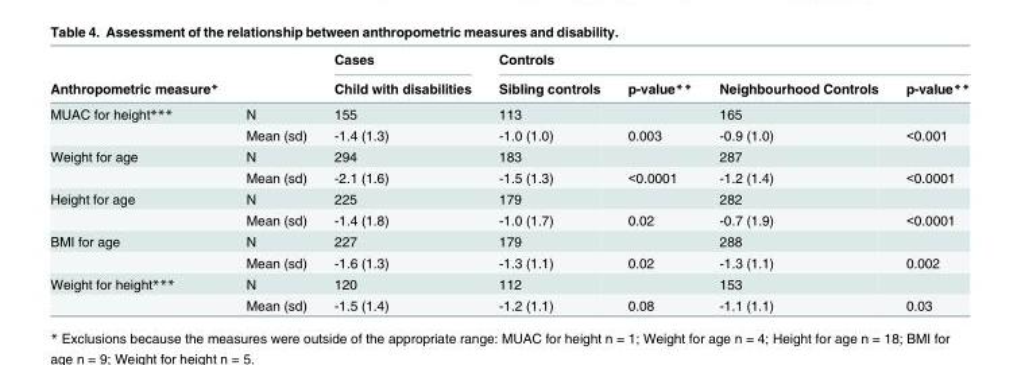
<table><thead><tr><td rowspan="2">Anthropometric measure*</td><td rowspan="2"></td><td rowspan="2">Cases Child with disabilities</td><td colspan="4">Controls</td></tr><tr><td>Sibling controls</td><td>p-value**</td><td>Neighbourhood Controls</td><td>p-value**</td></tr></thead><tbody><tr><td rowspan="2">MUAC for height***</td><td>N</td><td>155</td><td>113</td><td></td><td>165</td><td></td></tr><tr><td>Mean (sd)</td><td>-1.4 (1.3)</td><td>-1.0 (1.0)</td><td>0.003</td><td>-0.9 (1.0)</td><td>&lt;0.001</td></tr><tr><td rowspan="2">Weight for age</td><td>N</td><td>294</td><td>183</td><td></td><td>287</td><td></td></tr><tr><td>Mean (sd)</td><td>-2.1 (1.6)</td><td>-1.5 (1.3)</td><td>&lt;0.0001</td><td>-1.2 (1.4)</td><td>&lt;0.0001</td></tr><tr><td rowspan="2">Height for age</td><td>N</td><td>225</td><td>179</td><td></td><td>282</td><td></td></tr><tr><td>Mean (sd)</td><td>-1.4 (1.8)</td><td>-1.0 (1.7)</td><td>0.02</td><td>-0.7 (1.9)</td><td>&lt;0.0001</td></tr><tr><td rowspan="2">BMI for age</td><td>N</td><td>227</td><td>179</td><td></td><td>288</td><td></td></tr><tr><td>Mean (sd)</td><td>-1.6 (1.3)</td><td>-1.3 (1.1)</td><td>0.02</td><td>-1.3 (1.1)</td><td>0.002</td></tr><tr><td rowspan="2">Weight for height***</td><td>N</td><td>120</td><td>112</td><td></td><td>153</td><td></td></tr><tr><td>Mean (sd)</td><td>-1.5 (1.4)</td><td>-1.2 (1.1)</td><td>0.08</td><td>-1.1 (1.1)</td><td>0.03</td></tr></tbody></table>